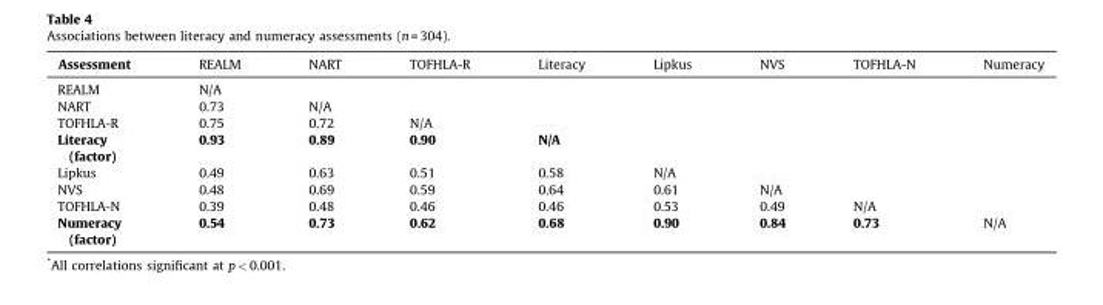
<table><thead><tr><td>Assessment</td><td>REALM</td><td>NART</td><td>TOFHLA-R</td><td>Literacy</td><td>Lipkus</td><td>NVS</td><td>TOFHLA-N</td><td>Numeracy</td></tr></thead><tbody><tr><td>REALM</td><td>N/A</td><td></td><td></td><td></td><td></td><td></td><td></td><td></td></tr><tr><td>NART</td><td>0.73</td><td>N/A</td><td></td><td></td><td></td><td></td><td></td><td></td></tr><tr><td>TOFHLA-R</td><td>0.75</td><td>0.72</td><td>N/A</td><td></td><td></td><td></td><td></td><td></td></tr><tr><td>Literacy (factor)</td><td>0.93</td><td>0.89</td><td>0.90</td><td>N/A</td><td></td><td></td><td></td><td></td></tr><tr><td>Lipkus</td><td>0.49</td><td>0.63</td><td>0.51</td><td>0.58</td><td>N/A</td><td></td><td></td><td></td></tr><tr><td>NVS</td><td>0.48</td><td>0.69</td><td>0.59</td><td>0.64</td><td>0.61</td><td>N/A</td><td></td><td></td></tr><tr><td>TOFHLA-N</td><td>0.39</td><td>0.48</td><td>0.46</td><td>0.46</td><td>0.53</td><td>0.49</td><td>N/A</td><td></td></tr><tr><td>Numeracy (factor)</td><td>0.54</td><td>0.73</td><td>0.62</td><td>0.68</td><td>0.90</td><td>0.84</td><td>0.73</td><td>N/A</td></tr></tbody></table>